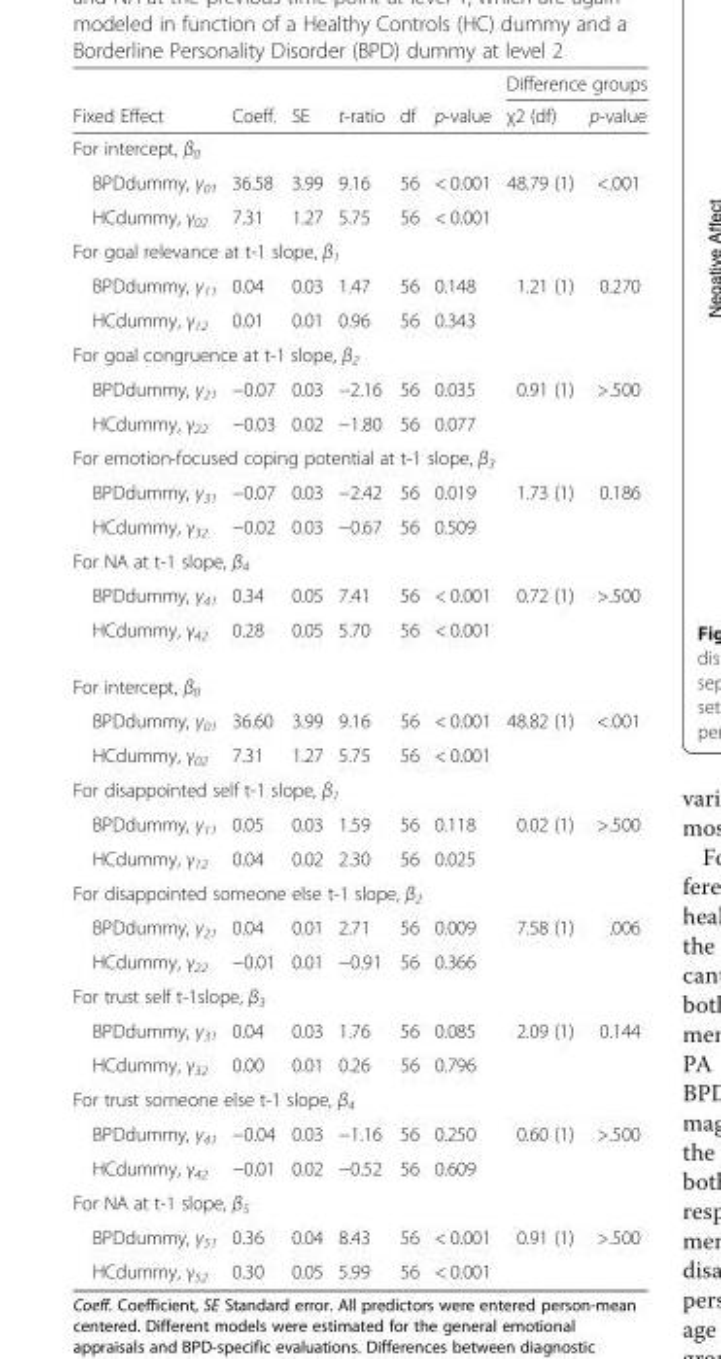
<table><thead><tr><td rowspan="2">Fixed Effect</td><td rowspan="2">Coeff.</td><td rowspan="2">SE</td><td rowspan="2">t-ratio</td><td rowspan="2">df</td><td rowspan="2">p-value</td><td colspan="2">Difference groups</td></tr><tr><td>χ2 (df)</td><td>p-value</td></tr></thead><tbody><tr><td colspan="8">For intercept, β<sub>0</sub></td></tr><tr><td>BPDdummy, γ<sub>01</sub></td><td>36.58</td><td>3.99</td><td>9.16</td><td>56</td><td>&lt; 0.001</td><td>48.79 (1)</td><td>&lt;.001</td></tr><tr><td>HCdummy, γ<sub>02</sub></td><td>7.31</td><td>1.27</td><td>5.75</td><td>56</td><td>&lt; 0.001</td><td></td><td></td></tr><tr><td colspan="8">For goal relevance at t-1 slope, β<sub>1</sub></td></tr><tr><td>BPDdummy, γ<sub>11</sub></td><td>0.04</td><td>0.03</td><td>1.47</td><td>56</td><td>0.148</td><td>1.21 (1)</td><td>0.270</td></tr><tr><td>HCdummy, γ<sub>12</sub></td><td>0.01</td><td>0.01</td><td>0.96</td><td>56</td><td>0.343</td><td></td><td></td></tr><tr><td colspan="8">For goal congruence at t-1 slope, β<sub>2</sub></td></tr><tr><td>BPDdummy, γ<sub>21</sub></td><td>−0.07</td><td>0.03</td><td>−2.16</td><td>56</td><td>0.035</td><td>0.91 (1)</td><td>&gt;.500</td></tr><tr><td>HCdummy, γ<sub>22</sub></td><td>−0.03</td><td>0.02</td><td>−1.80</td><td>56</td><td>0.077</td><td></td><td></td></tr><tr><td colspan="8">For emotion-focused coping potential at t-1 slope, β<sub>3</sub></td></tr><tr><td>BPDdummy, γ<sub>31</sub></td><td>−0.07</td><td>0.03</td><td>−2.42</td><td>56</td><td>0.019</td><td>1.73 (1)</td><td>0.186</td></tr><tr><td>HCdummy, γ<sub>32</sub></td><td>−0.02</td><td>0.03</td><td>−0.67</td><td>56</td><td>0.509</td><td></td><td></td></tr><tr><td colspan="8">For NA at t-1 slope, β<sub>4</sub></td></tr><tr><td>BPDdummy, γ<sub>41</sub></td><td>0.34</td><td>0.05</td><td>7.41</td><td>56</td><td>&lt; 0.001</td><td>0.72 (1)</td><td>&gt;.500</td></tr><tr><td>HCdummy, γ<sub>42</sub></td><td>0.28</td><td>0.05</td><td>5.70</td><td>56</td><td>&lt; 0.001</td><td></td><td></td></tr><tr><td colspan="8">For intercept, β<sub>0</sub></td></tr><tr><td>BPDdummy, γ<sub>01</sub></td><td>36.60</td><td>3.99</td><td>9.16</td><td>56</td><td>&lt; 0.001</td><td>48.82 (1)</td><td>&lt;.001</td></tr><tr><td>HCdummy, γ<sub>02</sub></td><td>7.31</td><td>1.27</td><td>5.75</td><td>56</td><td>&lt; 0.001</td><td></td><td></td></tr><tr><td colspan="8">For disappointed self t-1 slope, β<sub>1</sub></td></tr><tr><td>BPDdummy, γ<sub>11</sub></td><td>0.05</td><td>0.03</td><td>1.59</td><td>56</td><td>0.118</td><td>0.02 (1)</td><td>&gt;.500</td></tr><tr><td>HCdummy, γ<sub>12</sub></td><td>0.04</td><td>0.02</td><td>2.30</td><td>56</td><td>0.025</td><td></td><td></td></tr><tr><td colspan="8">For disappointed someone else t-1 slope, β<sub>2</sub></td></tr><tr><td>BPDdummy, γ<sub>21</sub></td><td>0.04</td><td>0.01</td><td>2.71</td><td>56</td><td>0.009</td><td>7.58 (1)</td><td>.006</td></tr><tr><td>HCdummy, γ<sub>22</sub></td><td>−0.01</td><td>0.01</td><td>−0.91</td><td>56</td><td>0.366</td><td></td><td></td></tr><tr><td colspan="8">For trust self t-1slope, β<sub>3</sub></td></tr><tr><td>BPDdummy, γ<sub>31</sub></td><td>0.04</td><td>0.03</td><td>1.76</td><td>56</td><td>0.085</td><td>2.09 (1)</td><td>0.144</td></tr><tr><td>HCdummy, γ<sub>32</sub></td><td>0.00</td><td>0.01</td><td>0.26</td><td>56</td><td>0.796</td><td></td><td></td></tr><tr><td colspan="8">For trust someone else t-1 slope, β<sub>4</sub></td></tr><tr><td>BPDdummy, γ<sub>41</sub></td><td>−0.04</td><td>0.03</td><td>−1.16</td><td>56</td><td>0.250</td><td>0.60 (1)</td><td>&gt;.500</td></tr><tr><td>HCdummy, γ<sub>42</sub></td><td>−0.01</td><td>0.02</td><td>−0.52</td><td>56</td><td>0.609</td><td></td><td></td></tr><tr><td colspan="8">For NA at t-1 slope, β<sub>5</sub></td></tr><tr><td>BPDdummy, γ<sub>51</sub></td><td>0.36</td><td>0.04</td><td>8.43</td><td>56</td><td>&lt; 0.001</td><td>0.91 (1)</td><td>&gt;.500</td></tr><tr><td>HCdummy, γ<sub>52</sub></td><td>0.30</td><td>0.05</td><td>5.99</td><td>56</td><td>&lt; 0.001</td><td></td><td></td></tr></tbody></table>